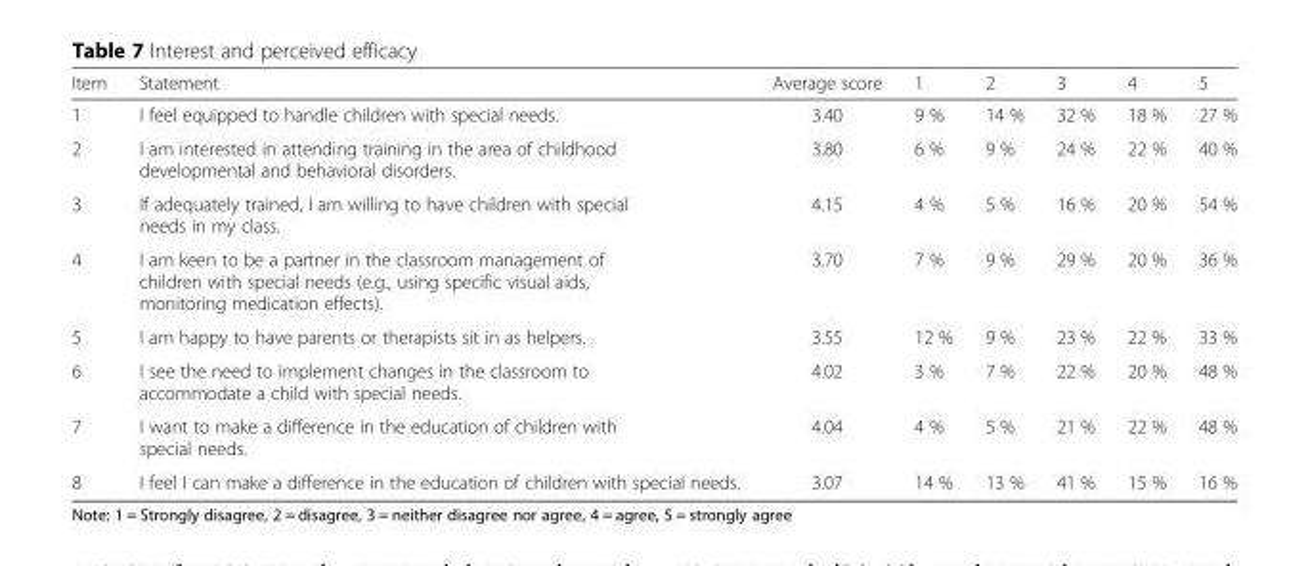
<table><thead><tr><td>Item</td><td>Statement</td><td>Average score</td><td>1</td><td>2</td><td>3</td><td>4</td><td>5</td></tr></thead><tbody><tr><td>1</td><td>I feel equipped to handle children with special needs.</td><td>3.40</td><td>9 %</td><td>14 %</td><td>32 %</td><td>18 %</td><td>27 %</td></tr><tr><td>2</td><td>I am interested in attending training in the area of childhood developmental and behavioral disorders.</td><td>3.80</td><td>6 %</td><td>9 %</td><td>24 %</td><td>22 %</td><td>40 %</td></tr><tr><td>3</td><td>If adequately trained, I am willing to have children with special needs in my class.</td><td>4.15</td><td>4 %</td><td>5 %</td><td>16 %</td><td>20 %</td><td>54 %</td></tr><tr><td>4</td><td>I am keen to be a partner in the classroom management of children with special needs (e.g., using specific visual aids, monitoring medication effects).</td><td>3.70</td><td>7 %</td><td>9 %</td><td>29 %</td><td>20 %</td><td>36 %</td></tr><tr><td>5</td><td>I am happy to have parents or therapists sit in as helpers.</td><td>3.55</td><td>12 %</td><td>9 %</td><td>23 %</td><td>22 %</td><td>33 %</td></tr><tr><td>6</td><td>I see the need to implement changes in the classroom to accommodate a child with special needs.</td><td>4.02</td><td>3 %</td><td>7 %</td><td>22 %</td><td>20 %</td><td>48 %</td></tr><tr><td>7</td><td>I want to make a difference in the education of children with special needs.</td><td>4.04</td><td>4 %</td><td>5 %</td><td>21 %</td><td>22 %</td><td>48 %</td></tr><tr><td>8</td><td>I feel I can make a difference in the education of children with special needs.</td><td>3.07</td><td>14 %</td><td>13 %</td><td>41 %</td><td>15 %</td><td>16 %</td></tr></tbody></table>